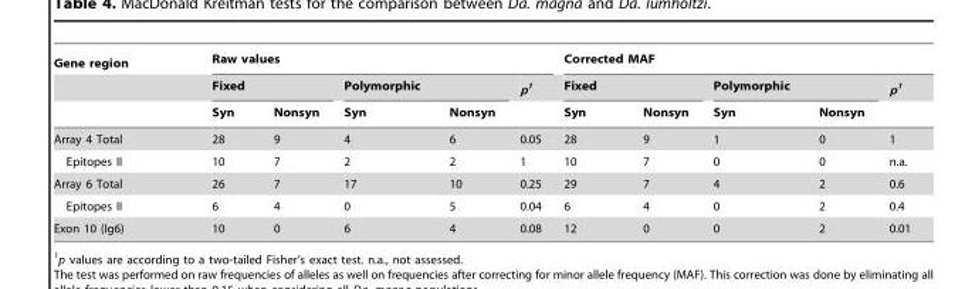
<table><thead><tr><td rowspan="3">Gene region</td><td colspan="5">Raw values</td><td colspan="5">Corrected MAF</td></tr><tr><td colspan="2">Fixed</td><td colspan="2">Polymorphic</td><td rowspan="2">p1</td><td colspan="2">Fixed</td><td colspan="2">Polymorphic</td><td rowspan="2">p1</td></tr><tr><td>Syn</td><td>Nonsyn</td><td>Syn</td><td>Nonsyn</td><td>Syn</td><td>Nonsyn</td><td>Syn</td><td>Nonsyn</td></tr></thead><tbody><tr><td>Array 4 Total</td><td>28</td><td>9</td><td>4</td><td>6</td><td>0.05</td><td>28</td><td>9</td><td>1</td><td>0</td><td>1</td></tr><tr><td>Epitopes II</td><td>10</td><td>7</td><td>2</td><td>2</td><td>1</td><td>10</td><td>7</td><td>0</td><td>0</td><td>n.a.</td></tr><tr><td>Array 6 Total</td><td>26</td><td>7</td><td>17</td><td>10</td><td>0.25</td><td>29</td><td>7</td><td>4</td><td>2</td><td>0.6</td></tr><tr><td>Epitopes II</td><td>6</td><td>4</td><td>0</td><td>5</td><td>0.04</td><td>6</td><td>4</td><td>0</td><td>2</td><td>0.4</td></tr><tr><td>Exon 10 (Ig6)</td><td>10</td><td>0</td><td>6</td><td>4</td><td>0.08</td><td>12</td><td>0</td><td>0</td><td>2</td><td>0.01</td></tr></tbody></table>